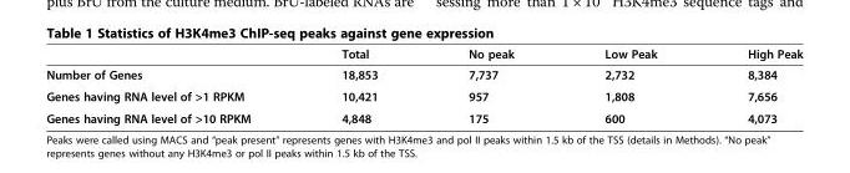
<table><thead><tr><td></td><td>Total</td><td>No peak</td><td>Low Peak</td><td>High Peak</td></tr></thead><tbody><tr><td>Number of Genes</td><td>18,853</td><td>7,737</td><td>2,732</td><td>8,384</td></tr><tr><td>Genes having RNA level of &gt;1 RPKM</td><td>10,421</td><td>957</td><td>1,808</td><td>7,656</td></tr><tr><td>Genes having RNA level of &gt;10 RPKM</td><td>4,848</td><td>175</td><td>600</td><td>4,073</td></tr></tbody></table>